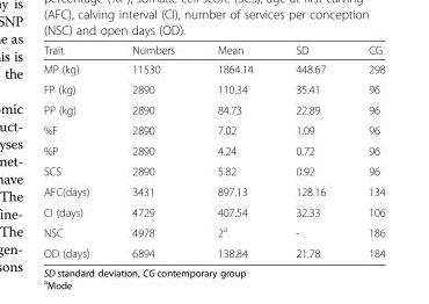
<table><thead><tr><td>Trait</td><td>Numbers</td><td>Mean</td><td>SD</td><td>CG</td></tr></thead><tbody><tr><td>MP (kg)</td><td>11530</td><td>1864.14</td><td>448.67</td><td>298</td></tr><tr><td>FP (kg)</td><td>2890</td><td>110.34</td><td>35.41</td><td>96</td></tr><tr><td>PP (kg)</td><td>2890</td><td>84.73</td><td>22.89</td><td>96</td></tr><tr><td>%F</td><td>2890</td><td>7.02</td><td>1.09</td><td>96</td></tr><tr><td>%P</td><td>2890</td><td>4.24</td><td>0.72</td><td>96</td></tr><tr><td>SCS</td><td>2890</td><td>5.82</td><td>0.92</td><td>96</td></tr><tr><td>AFC(days)</td><td>3431</td><td>897.13</td><td>128.16</td><td>134</td></tr><tr><td>CI (days)</td><td>4729</td><td>407.54</td><td>32.33</td><td>106</td></tr><tr><td>NSC</td><td>4978</td><td>2<sup>a</sup></td><td>-</td><td>186</td></tr><tr><td>OD (days)</td><td>6894</td><td>138.84</td><td>21.78</td><td>184</td></tr></tbody></table>